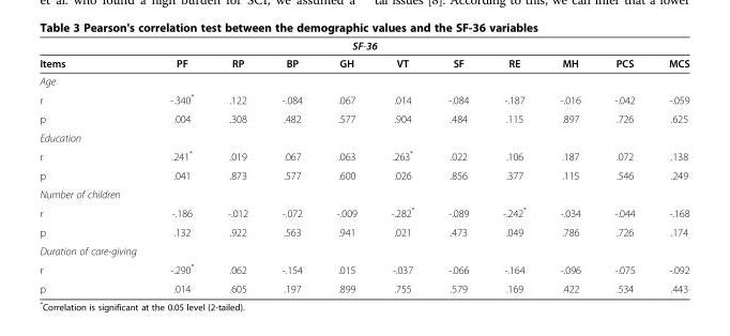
<table><thead><tr><td colspan="11">SF-36</td></tr><tr><td>Items</td><td>PF</td><td>RP</td><td>BP</td><td>GH</td><td>VT</td><td>SF</td><td>RE</td><td>MH</td><td>PCS</td><td>MCS</td></tr></thead><tbody><tr><td colspan="11">Age</td></tr><tr><td>r</td><td>-.340*</td><td>.122</td><td>-.084</td><td>.067</td><td>.014</td><td>-.084</td><td>-.187</td><td>-.016</td><td>-.042</td><td>-.059</td></tr><tr><td>p</td><td>.004</td><td>.308</td><td>.482</td><td>.577</td><td>.904</td><td>.484</td><td>.115</td><td>.897</td><td>.726</td><td>.625</td></tr><tr><td colspan="11">Education</td></tr><tr><td>r</td><td>.241*</td><td>.019</td><td>.067</td><td>.063</td><td>.263*</td><td>.022</td><td>.106</td><td>.187</td><td>.072</td><td>.138</td></tr><tr><td>p</td><td>.041</td><td>.873</td><td>.577</td><td>.600</td><td>.026</td><td>.856</td><td>.377</td><td>.115</td><td>.546</td><td>.249</td></tr><tr><td colspan="11">Number of children</td></tr><tr><td>r</td><td>-.186</td><td>-.012</td><td>-.072</td><td>-.009</td><td>-.282*</td><td>-.089</td><td>-.242*</td><td>-.034</td><td>-.044</td><td>-.168</td></tr><tr><td>p</td><td>.132</td><td>.922</td><td>.563</td><td>.941</td><td>.021</td><td>.473</td><td>.049</td><td>.786</td><td>.726</td><td>.174</td></tr><tr><td colspan="11">Duration of care-giving</td></tr><tr><td>r</td><td>-.290*</td><td>.062</td><td>-.154</td><td>.015</td><td>-.037</td><td>-.066</td><td>-.164</td><td>-.096</td><td>-.075</td><td>-.092</td></tr><tr><td>p</td><td>.014</td><td>.605</td><td>.197</td><td>.899</td><td>.755</td><td>.579</td><td>.169</td><td>.422</td><td>.534</td><td>.443</td></tr></tbody></table>